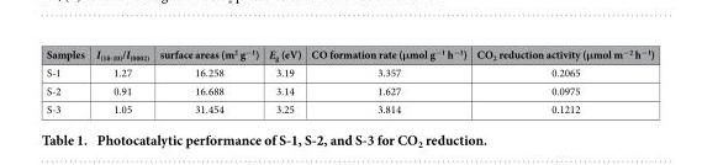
<table><thead><tr><td>Samples</td><td>I<sub>(10-10)</sub>/I<sub>(0002)</sub></td><td>surface areas (m<sup>2</sup> g<sup>−1</sup>)</td><td>E<sub>g</sub> (eV)</td><td>CO formation rate (μmol g<sup>−1</sup> h<sup>−1</sup>)</td><td>CO<sub>2</sub> reduction activity (μmol m<sup>−2</sup> h<sup>−1</sup>)</td></tr></thead><tbody><tr><td>S-1</td><td>1.27</td><td>16.258</td><td>3.19</td><td>3.357</td><td>0.2065</td></tr><tr><td>S-2</td><td>0.91</td><td>16.688</td><td>3.14</td><td>1.627</td><td>0.0975</td></tr><tr><td>S-3</td><td>1.05</td><td>31.454</td><td>3.25</td><td>3.814</td><td>0.1212</td></tr></tbody></table>